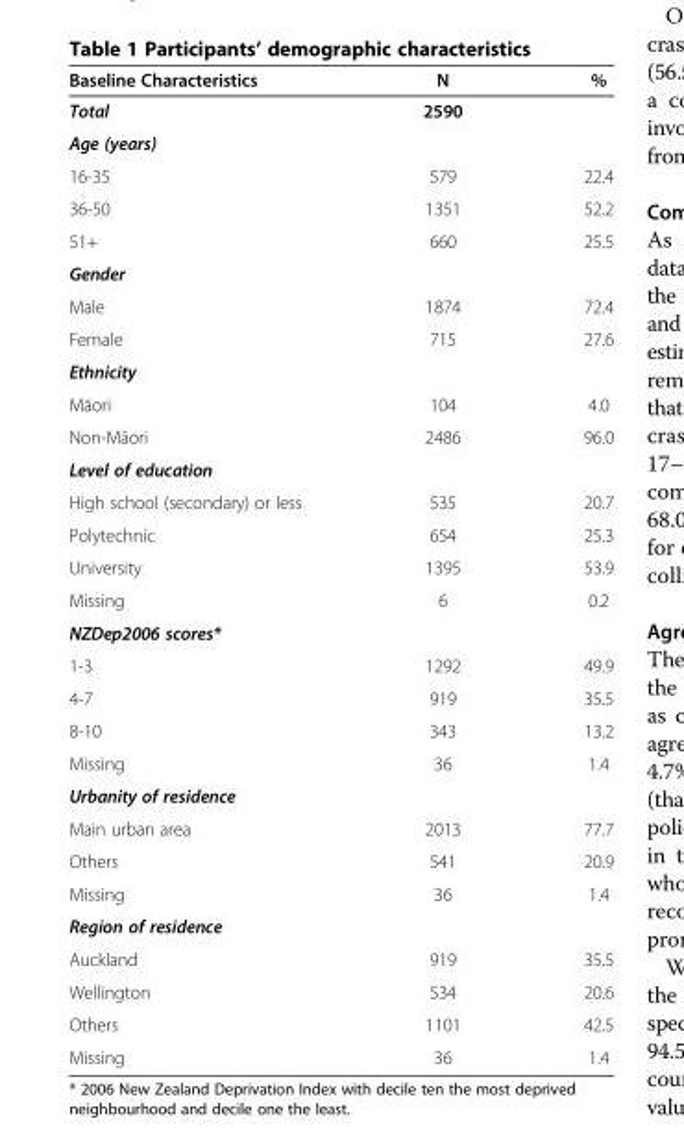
<table><thead><tr><td>Baseline Characteristics</td><td>N</td><td>%</td></tr></thead><tbody><tr><td>Total</td><td>2590</td><td></td></tr><tr><td colspan="3">Age (years)</td></tr><tr><td>16-35</td><td>579</td><td>22.4</td></tr><tr><td>36-50</td><td>1351</td><td>52.2</td></tr><tr><td>51+</td><td>660</td><td>25.5</td></tr><tr><td colspan="3">Gender</td></tr><tr><td>Male</td><td>1874</td><td>72.4</td></tr><tr><td>Female</td><td>715</td><td>27.6</td></tr><tr><td colspan="3">Ethnicity</td></tr><tr><td>Māori</td><td>104</td><td>4.0</td></tr><tr><td>Non-Māori</td><td>2486</td><td>96.0</td></tr><tr><td colspan="3">Level of education</td></tr><tr><td>High school (secondary) or less</td><td>535</td><td>20.7</td></tr><tr><td>Polytechnic</td><td>654</td><td>25.3</td></tr><tr><td>University</td><td>1395</td><td>53.9</td></tr><tr><td>Missing</td><td>6</td><td>0.2</td></tr><tr><td colspan="3">NZDep2006 scores*</td></tr><tr><td>1-3</td><td>1292</td><td>49.9</td></tr><tr><td>4-7</td><td>919</td><td>35.5</td></tr><tr><td>8-10</td><td>343</td><td>13.2</td></tr><tr><td>Missing</td><td>36</td><td>1.4</td></tr><tr><td colspan="3">Urbanity of residence</td></tr><tr><td>Main urban area</td><td>2013</td><td>77.7</td></tr><tr><td>Others</td><td>541</td><td>20.9</td></tr><tr><td>Missing</td><td>36</td><td>1.4</td></tr><tr><td colspan="3">Region of residence</td></tr><tr><td>Auckland</td><td>919</td><td>35.5</td></tr><tr><td>Wellington</td><td>534</td><td>20.6</td></tr><tr><td>Others</td><td>1101</td><td>42.5</td></tr><tr><td>Missing</td><td>36</td><td>1.4</td></tr></tbody></table>